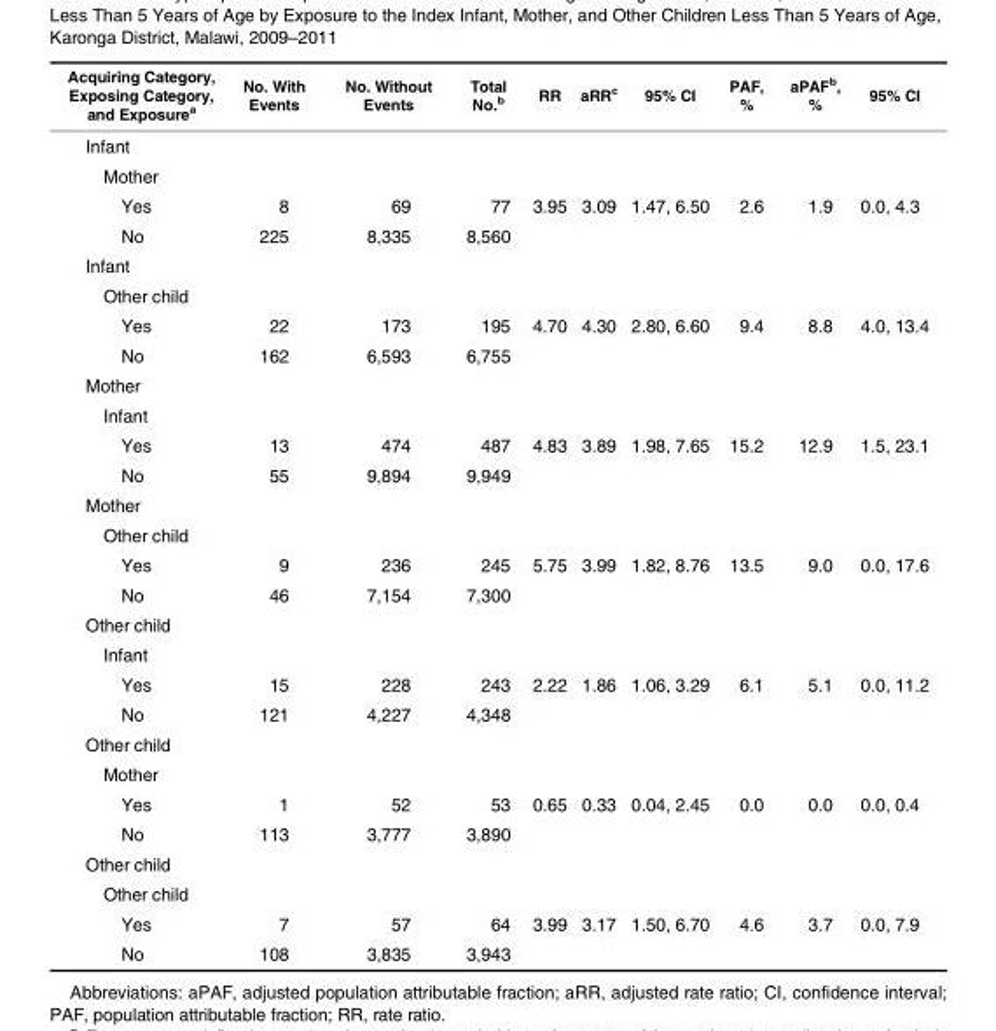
<table><thead><tr><td>Acquiring Category, Exposing Category, and Exposure<sup>a</sup></td><td>No. With Events</td><td>No. Without Events</td><td>Total No.<sup>b</sup></td><td>RR</td><td>aRR<sup>c</sup></td><td>95% CI</td><td>PAF, %</td><td>aPAF<sup>b</sup>, %</td><td>95% CI</td></tr></thead><tbody><tr><td colspan="10">Infant</td></tr><tr><td colspan="10">Mother</td></tr><tr><td>Yes</td><td>8</td><td>69</td><td>77</td><td>3.95</td><td>3.09</td><td>1.47, 6.50</td><td>2.6</td><td>1.9</td><td>0.0, 4.3</td></tr><tr><td>No</td><td>225</td><td>8,335</td><td>8,560</td><td></td><td></td><td></td><td></td><td></td><td></td></tr><tr><td colspan="10">Infant</td></tr><tr><td colspan="10">Other child</td></tr><tr><td>Yes</td><td>22</td><td>173</td><td>195</td><td>4.70</td><td>4.30</td><td>2.80, 6.60</td><td>9.4</td><td>8.8</td><td>4.0, 13.4</td></tr><tr><td>No</td><td>162</td><td>6,593</td><td>6,755</td><td></td><td></td><td></td><td></td><td></td><td></td></tr><tr><td colspan="10">Mother</td></tr><tr><td colspan="10">Infant</td></tr><tr><td>Yes</td><td>13</td><td>474</td><td>487</td><td>4.83</td><td>3.89</td><td>1.98, 7.65</td><td>15.2</td><td>12.9</td><td>1.5, 23.1</td></tr><tr><td>No</td><td>55</td><td>9,894</td><td>9,949</td><td></td><td></td><td></td><td></td><td></td><td></td></tr><tr><td colspan="10">Mother</td></tr><tr><td colspan="10">Other child</td></tr><tr><td>Yes</td><td>9</td><td>236</td><td>245</td><td>5.75</td><td>3.99</td><td>1.82, 8.76</td><td>13.5</td><td>9.0</td><td>0.0, 17.6</td></tr><tr><td>No</td><td>46</td><td>7,154</td><td>7,300</td><td></td><td></td><td></td><td></td><td></td><td></td></tr><tr><td colspan="10">Other child</td></tr><tr><td colspan="10">Infant</td></tr><tr><td>Yes</td><td>15</td><td>228</td><td>243</td><td>2.22</td><td>1.86</td><td>1.06, 3.29</td><td>6.1</td><td>5.1</td><td>0.0, 11.2</td></tr><tr><td>No</td><td>121</td><td>4,227</td><td>4,348</td><td></td><td></td><td></td><td></td><td></td><td></td></tr><tr><td colspan="10">Other child</td></tr><tr><td colspan="10">Mother</td></tr><tr><td>Yes</td><td>1</td><td>52</td><td>53</td><td>0.65</td><td>0.33</td><td>0.04, 2.45</td><td>0.0</td><td>0.0</td><td>0.0, 0.4</td></tr><tr><td>No</td><td>113</td><td>3,777</td><td>3,890</td><td></td><td></td><td></td><td></td><td></td><td></td></tr><tr><td colspan="10">Other child</td></tr><tr><td colspan="10">Other child</td></tr><tr><td>Yes</td><td>7</td><td>57</td><td>64</td><td>3.99</td><td>3.17</td><td>1.50, 6.70</td><td>4.6</td><td>3.7</td><td>0.0, 7.9</td></tr><tr><td>No</td><td>108</td><td>3,835</td><td>3,943</td><td></td><td></td><td></td><td></td><td></td><td></td></tr></tbody></table>